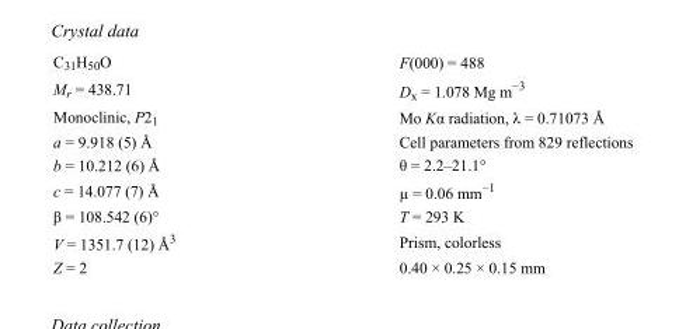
<table><tbody><tr><td>C<sub>31</sub>H<sub>50</sub>O</td><td>F(000) = 488</td></tr><tr><td>M<sub>r</sub> = 438.71</td><td>D<sub>x</sub> = 1.078 Mg m<sup>−3</sup></td></tr><tr><td>Monoclinic, P2<sub>1</sub></td><td>Mo Kα radiation, λ = 0.71073 Å</td></tr><tr><td>a = 9.918 (5) Å</td><td>Cell parameters from 829 reflections</td></tr><tr><td>b = 10.212 (6) Å</td><td>θ = 2.2–21.1°</td></tr><tr><td>c = 14.077 (7) Å</td><td>µ = 0.06 mm<sup>−1</sup></td></tr><tr><td>β = 108.542 (6)°</td><td>T = 293 K</td></tr><tr><td>V = 1351.7 (12) Å<sup>3</sup></td><td>Prism, colorless</td></tr><tr><td>Z = 2</td><td>0.40 × 0.25 × 0.15 mm</td></tr></tbody></table>